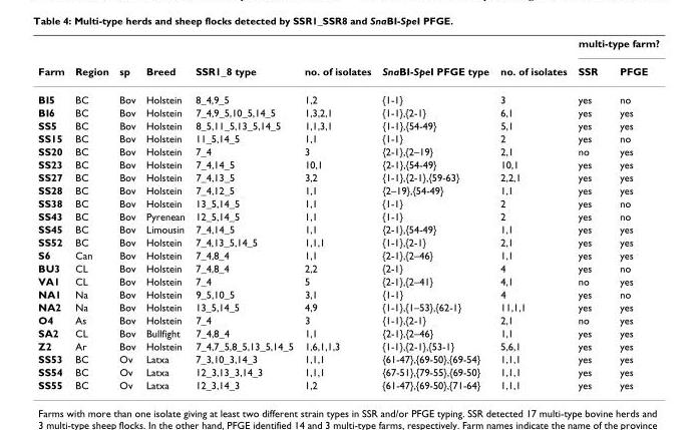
<table><thead><tr><td rowspan="2">Farm</td><td rowspan="2">Region</td><td rowspan="2">sp</td><td rowspan="2">Breed</td><td rowspan="2">SSR1_8 type</td><td rowspan="2">no. of isolates</td><td rowspan="2">SnaBI-SpeI PFGE type</td><td rowspan="2">no. of isolates</td><td colspan="2">multi-type farm?</td></tr><tr><td>SSR</td><td>PFGE</td></tr></thead><tbody><tr><td>BI5</td><td>BC</td><td>Bov</td><td>Holstein</td><td>8_4,9_5</td><td>1,2</td><td>{1-1}</td><td>3</td><td>yes</td><td>no</td></tr><tr><td>BI6</td><td>BC</td><td>Bov</td><td>Holstein</td><td>7_4,9_5,10_5,14_5</td><td>1,3,2,1</td><td>{1-1},{2-1}</td><td>6,1</td><td>yes</td><td>yes</td></tr><tr><td>SS5</td><td>BC</td><td>Bov</td><td>Holstein</td><td>8_5,11_5,13_5,14_5</td><td>1,1,3,1</td><td>{1-1},{54-49}</td><td>5,1</td><td>yes</td><td>yes</td></tr><tr><td>SS15</td><td>BC</td><td>Bov</td><td>Holstein</td><td>11_5,14_5</td><td>1,1</td><td>{1-1}</td><td>2</td><td>yes</td><td>no</td></tr><tr><td>SS20</td><td>BC</td><td>Bov</td><td>Holstein</td><td>7_4</td><td>3</td><td>{2-1},{2–19}</td><td>2,1</td><td>no</td><td>yes</td></tr><tr><td>SS23</td><td>BC</td><td>Bov</td><td>Holstein</td><td>7_4,14_5</td><td>10,1</td><td>{2-1},{54-49}</td><td>10,1</td><td>yes</td><td>yes</td></tr><tr><td>SS27</td><td>BC</td><td>Bov</td><td>Holstein</td><td>7_4,13_5</td><td>3,2</td><td>{1-1},{2-1},{59-63}</td><td>2,2,1</td><td>yes</td><td>yes</td></tr><tr><td>SS28</td><td>BC</td><td>Bov</td><td>Holstein</td><td>7_4,12_5</td><td>1,1</td><td>{2–19},{54-49}</td><td>1,1</td><td>yes</td><td>yes</td></tr><tr><td>SS38</td><td>BC</td><td>Bov</td><td>Holstein</td><td>13_5,14_5</td><td>1,1</td><td>{1-1}</td><td>2</td><td>yes</td><td>no</td></tr><tr><td>SS43</td><td>BC</td><td>Bov</td><td>Pyrenean</td><td>12_5,14_5</td><td>1,1</td><td>{1-1}</td><td>2</td><td>yes</td><td>no</td></tr><tr><td>SS45</td><td>BC</td><td>Bov</td><td>Limousin</td><td>7_4,14_5</td><td>1,1</td><td>{2-1},{54-49}</td><td>1,1</td><td>yes</td><td>yes</td></tr><tr><td>SS52</td><td>BC</td><td>Bov</td><td>Holstein</td><td>7_4,13_5,14_5</td><td>1,1,1</td><td>{1-1},{2-1}</td><td>2,1</td><td>yes</td><td>yes</td></tr><tr><td>S6</td><td>Can</td><td>Bov</td><td>Holstein</td><td>7_4,8_4</td><td>1,1</td><td>{2-1},{2–46}</td><td>1,1</td><td>yes</td><td>yes</td></tr><tr><td>BU3</td><td>CL</td><td>Bov</td><td>Holstein</td><td>7_4,8_4</td><td>2,2</td><td>{2-1}</td><td>4</td><td>yes</td><td>no</td></tr><tr><td>VA1</td><td>CL</td><td>Bov</td><td>Holstein</td><td>7_4</td><td>5</td><td>{2-1},{2–41}</td><td>4,1</td><td>no</td><td>yes</td></tr><tr><td>NA1</td><td>Na</td><td>Bov</td><td>Holstein</td><td>9_5,10_5</td><td>3,1</td><td>{1-1}</td><td>4</td><td>yes</td><td>no</td></tr><tr><td>NA2</td><td>Na</td><td>Bov</td><td>Holstein</td><td>13_5,14_5</td><td>4,9</td><td>{1-1},{1–53},{62-1}</td><td>11,1,1</td><td>yes</td><td>yes</td></tr><tr><td>O4</td><td>As</td><td>Bov</td><td>Holstein</td><td>7_4</td><td>3</td><td>{1-1},{2-1}</td><td>2,1</td><td>no</td><td>yes</td></tr><tr><td>SA2</td><td>CL</td><td>Bov</td><td>Bullfight</td><td>7_4,8_4</td><td>1,1</td><td>{2-1},{2–46}</td><td>1,1</td><td>yes</td><td>yes</td></tr><tr><td>Z2</td><td>Ar</td><td>Bov</td><td>Holstein</td><td>7_4,7_5,8_5,13_5,14_5</td><td>1,6,1,1,3</td><td>{1-1},{2-1},{53-1}</td><td>5,6,1</td><td>yes</td><td>yes</td></tr><tr><td>SS53</td><td>BC</td><td>Ov</td><td>Latxa</td><td>7_3,10_3,14_3</td><td>1,1,1</td><td>{61-47},{69-50},{69-54}</td><td>1,1,1</td><td>yes</td><td>yes</td></tr><tr><td>SS54</td><td>BC</td><td>Ov</td><td>Latxa</td><td>12_3,13_3,14_3</td><td>1,1,1</td><td>{67-51},{79-55},{69-50}</td><td>1,1,1</td><td>yes</td><td>yes</td></tr><tr><td>SS55</td><td>BC</td><td>Ov</td><td>Latxa</td><td>12_3,14_3</td><td>1,2</td><td>{61-47},{69-50},{71-64}</td><td>1,1,1</td><td>yes</td><td>yes</td></tr></tbody></table>